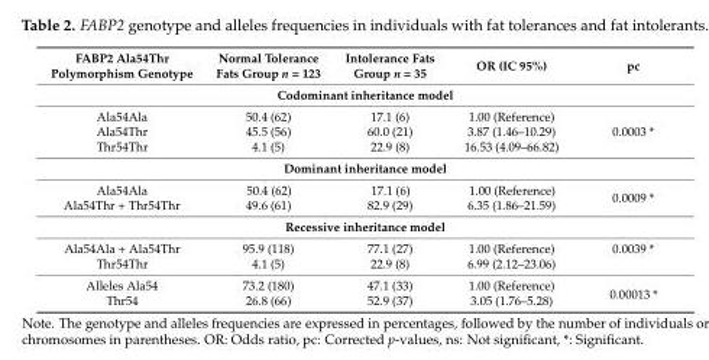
<table><thead><tr><td>FABP2 Ala54Thr Polymorphism Genotype</td><td>Normal Tolerance Fats Group n = 123</td><td>Intolerance Fats Group n = 35</td><td>OR (IC 95%)</td><td>pc</td></tr></thead><tbody><tr><td colspan="5">Codominant inheritance model</td></tr><tr><td>Ala54Ala</td><td>50.4 (62)</td><td>17.1 (6)</td><td>1.00 (Reference)</td><td></td></tr><tr><td>Ala54Thr</td><td>45.5 (56)</td><td>60.0 (21)</td><td>3.87 (1.46–10.29)</td><td>0.0003 *</td></tr><tr><td>Thr54Thr</td><td>4.1 (5)</td><td>22.9 (8)</td><td>16.53 (4.09–66.82)</td><td></td></tr><tr><td colspan="5">Dominant inheritance model</td></tr><tr><td>Ala54Ala Ala54Thr + Thr54Thr</td><td>50.4 (62) 49.6 (61)</td><td>17.1 (6) 82.9 (29)</td><td>1.00 (Reference) 6.35 (1.86–21.59)</td><td>0.0009 *</td></tr><tr><td colspan="5">Recessive inheritance model</td></tr><tr><td>Ala54Ala + Ala54Thr</td><td>95.9 (118)</td><td>77.1 (27)</td><td>1.00 (Reference)</td><td>0.0039 *</td></tr><tr><td>Thr54Thr</td><td>4.1 (5)</td><td>22.9 (8)</td><td>6.99 (2.12–23.06)</td><td></td></tr><tr><td>Alleles Ala54</td><td>73.2 (180)</td><td>47.1 (33)</td><td>1.00 (Reference)</td><td rowspan="2">0.00013 *</td></tr><tr><td>Thr54</td><td>26.8 (66)</td><td>52.9 (37)</td><td>3.05 (1.76–5.28)</td></tr></tbody></table>